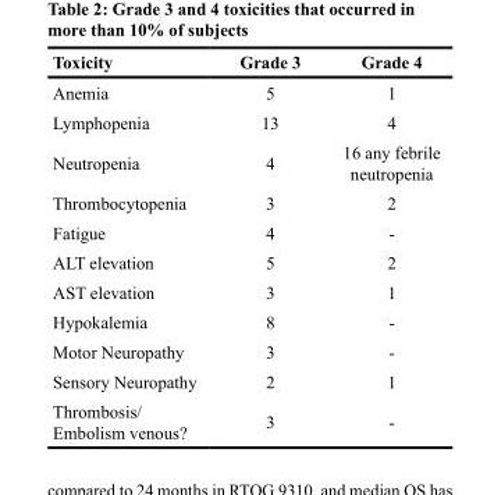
<table><thead><tr><td>Toxicity</td><td>Grade 3</td><td>Grade 4</td></tr></thead><tbody><tr><td>Anemia</td><td>5</td><td>1</td></tr><tr><td>Lymphopenia</td><td>13</td><td>4</td></tr><tr><td>Neutropenia</td><td>4</td><td>16 any febrile neutropenia</td></tr><tr><td>Thrombocytopenia</td><td>3</td><td>2</td></tr><tr><td>Fatigue</td><td>4</td><td>-</td></tr><tr><td>ALT elevation</td><td>5</td><td>2</td></tr><tr><td>AST elevation</td><td>3</td><td>1</td></tr><tr><td>Hypokalemia</td><td>8</td><td>-</td></tr><tr><td>Motor Neuropathy</td><td>3</td><td>-</td></tr><tr><td>Sensory Neuropathy</td><td>2</td><td>1</td></tr><tr><td>Thrombosis/ Embolism venous?</td><td>3</td><td>-</td></tr></tbody></table>